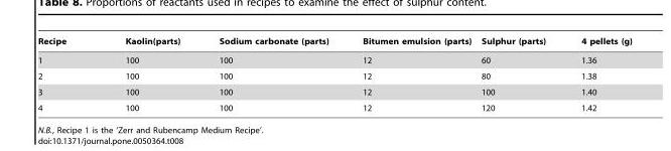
<table><thead><tr><td>Recipe</td><td>Kaolin(parts)</td><td>Sodium carbonate (parts)</td><td>Bitumen emulsion (parts)</td><td>Sulphur (parts)</td><td>4 pellets (g)</td></tr></thead><tbody><tr><td>1</td><td>100</td><td>100</td><td>12</td><td>60</td><td>1.36</td></tr><tr><td>2</td><td>100</td><td>100</td><td>12</td><td>80</td><td>1.38</td></tr><tr><td>3</td><td>100</td><td>100</td><td>12</td><td>100</td><td>1.40</td></tr><tr><td>4</td><td>100</td><td>100</td><td>12</td><td>120</td><td>1.42</td></tr></tbody></table>